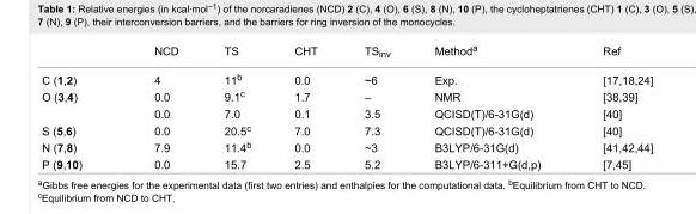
<table><thead><tr><td></td><td>NCD</td><td>TS</td><td>CHT</td><td>TS<sub>inv</sub></td><td>Method<sup>a</sup></td><td>Ref</td></tr></thead><tbody><tr><td>C (1,2)</td><td>4</td><td>11<sup>b</sup></td><td>0.0</td><td>~6</td><td>Exp.</td><td>[17,18,24]</td></tr><tr><td rowspan="2">O (3,4)</td><td>0.0</td><td>9.1<sup>c</sup></td><td>1.7</td><td>–</td><td>NMR</td><td>[38–39]</td></tr><tr><td>0.0</td><td>7.0</td><td>0.1</td><td>3.5</td><td>QCISD(T)/6-31G(d)</td><td>[40]</td></tr><tr><td>S (5,6)</td><td>0.0</td><td>20.5<sup>c</sup></td><td>7.0</td><td>7.3</td><td>QCISD(T)/6-31G(d)</td><td>[40]</td></tr><tr><td>N (7,8)</td><td>7.9</td><td>11.4<sup>b</sup></td><td>0.0</td><td>~3</td><td>B3LYP/6-31G(d)</td><td>[41,42,44]</td></tr><tr><td>P (9,10)</td><td>0.0</td><td>15.7</td><td>2.5</td><td>5.2</td><td>B3LYP/6-311+G(d,p)</td><td>[7,45]</td></tr></tbody></table>